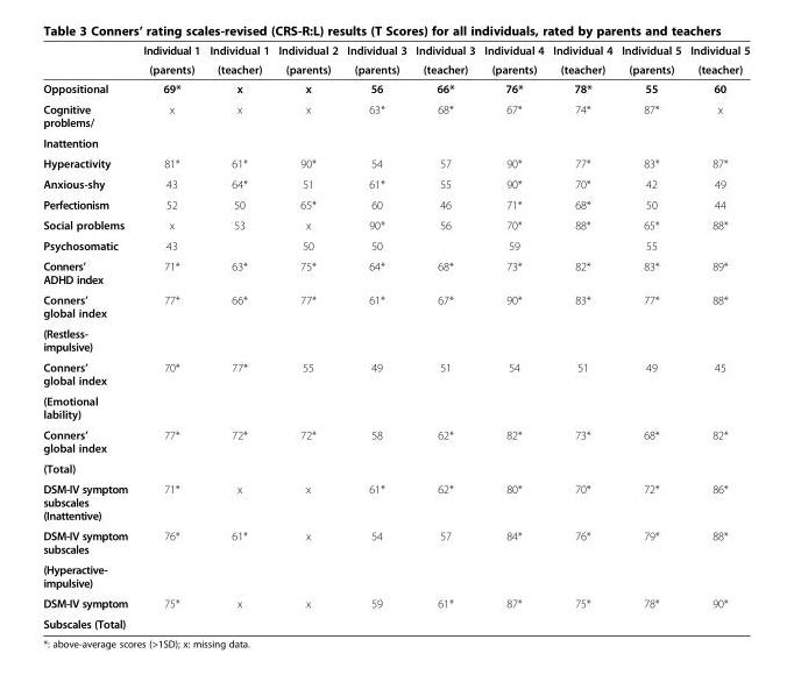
<table><thead><tr><td rowspan="2"></td><td rowspan="2">Individual 1 (parents)</td><td rowspan="2">Individual 1 (teacher)</td><td rowspan="2">Individual 2 (parents)</td><td rowspan="2">Individual 3 (parents)</td><td rowspan="2">Individual 3 (teacher)</td><td rowspan="2">Individual 4 (parents)</td><td rowspan="2">Individual 4 (teacher)</td><td rowspan="2">Individual 5 (parents)</td><td rowspan="2">Individual 5 (teacher)</td></tr><tr></tr></thead><tbody><tr><td>Oppositional</td><td>69*</td><td>x</td><td>x</td><td>56</td><td>66*</td><td>76*</td><td>78*</td><td>55</td><td>60</td></tr><tr><td>Cognitive problems/</td><td rowspan="2">x</td><td rowspan="2">x</td><td rowspan="2">x</td><td rowspan="2">63*</td><td rowspan="2">68*</td><td rowspan="2">67*</td><td rowspan="2">74*</td><td rowspan="2">87*</td><td rowspan="2">x</td></tr><tr><td>Inattention</td></tr><tr><td>Hyperactivity</td><td>81*</td><td>61*</td><td>90*</td><td>54</td><td>57</td><td>90*</td><td>77*</td><td>83*</td><td>87*</td></tr><tr><td>Anxious-shy</td><td>43</td><td>64*</td><td>51</td><td>61*</td><td>55</td><td>90*</td><td>70*</td><td>42</td><td>49</td></tr><tr><td>Perfectionism</td><td>52</td><td>50</td><td>65*</td><td>60</td><td>46</td><td>71*</td><td>68*</td><td>50</td><td>44</td></tr><tr><td>Social problems</td><td>x</td><td>53</td><td>x</td><td>90*</td><td>56</td><td>70*</td><td>88*</td><td>65*</td><td>88*</td></tr><tr><td>Psychosomatic</td><td>43</td><td></td><td>50</td><td>50</td><td></td><td>59</td><td></td><td>55</td><td></td></tr><tr><td>Conners’ ADHD index</td><td>71*</td><td>63*</td><td>75*</td><td>64*</td><td>68*</td><td>73*</td><td>82*</td><td>83*</td><td>89*</td></tr><tr><td>Conners’ global index</td><td rowspan="2">77*</td><td rowspan="2">66*</td><td rowspan="2">77*</td><td rowspan="2">61*</td><td rowspan="2">67*</td><td rowspan="2">90*</td><td rowspan="2">83*</td><td rowspan="2">77*</td><td rowspan="2">88*</td></tr><tr><td>(Restless- impulsive)</td></tr><tr><td>Conners’ global index</td><td rowspan="2">70*</td><td rowspan="2">77*</td><td rowspan="2">55</td><td rowspan="2">49</td><td rowspan="2">51</td><td rowspan="2">54</td><td rowspan="2">51</td><td rowspan="2">49</td><td rowspan="2">45</td></tr><tr><td>(Emotional lability)</td></tr><tr><td>Conners’ global index</td><td rowspan="2">77*</td><td rowspan="2">72*</td><td rowspan="2">72*</td><td rowspan="2">58</td><td rowspan="2">62*</td><td rowspan="2">82*</td><td rowspan="2">73*</td><td rowspan="2">68*</td><td rowspan="2">82*</td></tr><tr><td>(Total)</td></tr><tr><td>DSM-IV symptom subscales (Inattentive)</td><td>71*</td><td>x</td><td>x</td><td>61*</td><td>62*</td><td>80*</td><td>70*</td><td>72*</td><td>86*</td></tr><tr><td>DSM-IV symptom subscales</td><td rowspan="2">76*</td><td rowspan="2">61*</td><td rowspan="2">x</td><td rowspan="2">54</td><td rowspan="2">57</td><td rowspan="2">84*</td><td rowspan="2">76*</td><td rowspan="2">79*</td><td rowspan="2">88*</td></tr><tr><td>(Hyperactive- impulsive)</td></tr><tr><td>DSM-IV symptom</td><td>75*</td><td>x</td><td>x</td><td>59</td><td>61*</td><td>87*</td><td>75*</td><td>78*</td><td>90*</td></tr><tr><td>Subscales (Total)</td><td></td><td></td><td></td><td></td><td></td><td></td><td></td><td></td><td></td></tr></tbody></table>